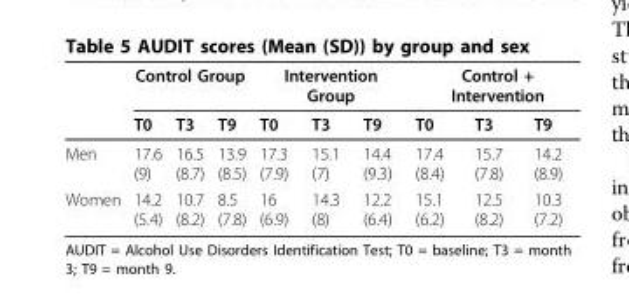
<table><thead><tr><td rowspan="2"></td><td colspan="3">Control Group</td><td colspan="3">Intervention Group</td><td colspan="3">Control + Intervention</td></tr><tr><td>T0</td><td>T3</td><td>T9</td><td>T0</td><td>T3</td><td>T9</td><td>T0</td><td>T3</td><td>T9</td></tr></thead><tbody><tr><td>Men</td><td>17.6 (9)</td><td>16.5 (8.7)</td><td>13.9 (8.5)</td><td>17.3 (7.9)</td><td>15.1 (7)</td><td>14.4 (9.3)</td><td>17.4 (8.4)</td><td>15.7 (7.8)</td><td>14.2 (8.9)</td></tr><tr><td>Women</td><td>14.2 (5.4)</td><td>10.7 (8.2)</td><td>8.5 (7.8)</td><td>16 (6.9)</td><td>14.3 (8)</td><td>12.2 (6.4)</td><td>15.1 (6.2)</td><td>12.5 (8.2)</td><td>10.3 (7.2)</td></tr></tbody></table>